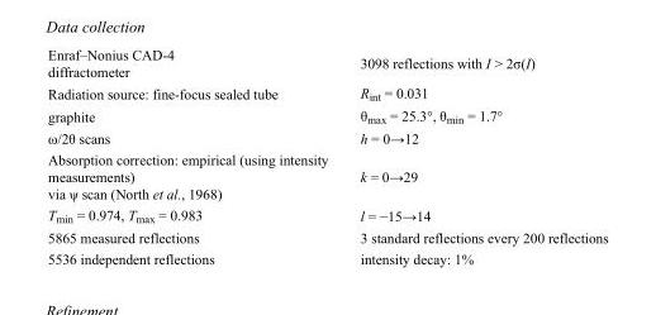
<table><tbody><tr><td>Enraf–Nonius CAD-4 diffractometer</td><td>3098 reflections with I &gt; 2σ(I)</td></tr><tr><td>Radiation source: fine-focus sealed tube</td><td>R<sub>int</sub> = 0.031</td></tr><tr><td>graphite</td><td>θ<sub>max</sub> = 25.3°, θ<sub>min</sub> = 1.7°</td></tr><tr><td>ω/2θ scans</td><td>h = 0→12</td></tr><tr><td>Absorption correction: empirical (using intensity measurements) via ψ scan (North et al., 1968)</td><td>k = 0→29</td></tr><tr><td>T<sub>min</sub> = 0.974, T<sub>max</sub> = 0.983</td><td>l = −15→14</td></tr><tr><td>5865 measured reflections</td><td>3 standard reflections every 200 reflections</td></tr><tr><td>5536 independent reflections</td><td>intensity decay: 1%</td></tr></tbody></table>